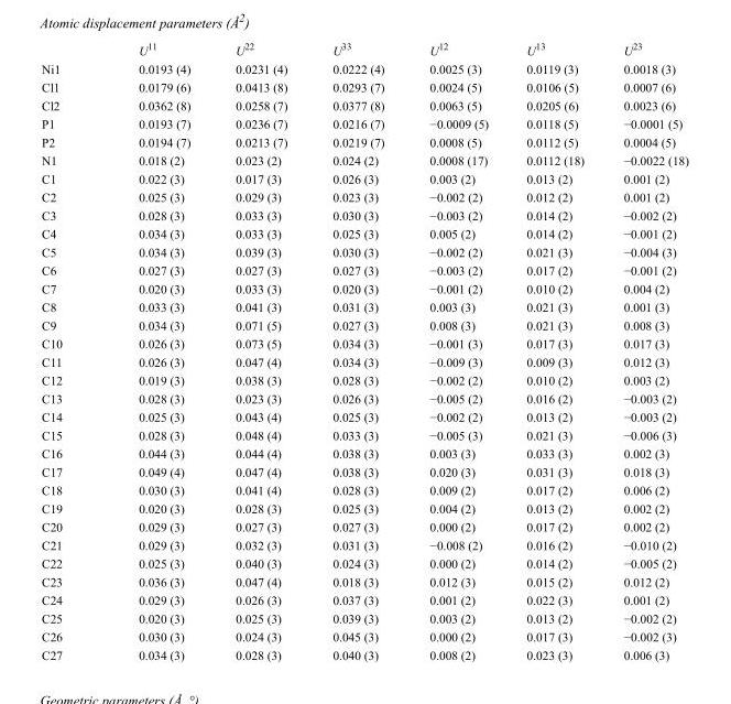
<table><thead><tr><td></td><td>U<sup>11</sup></td><td>U<sup>22</sup></td><td>U<sup>33</sup></td><td>U<sup>12</sup></td><td>U<sup>13</sup></td><td>U<sup>23</sup></td></tr></thead><tbody><tr><td>Ni1</td><td>0.0193 (4)</td><td>0.0231 (4)</td><td>0.0222 (4)</td><td>0.0025 (3)</td><td>0.0119 (3)</td><td>0.0018 (3)</td></tr><tr><td>Cl1</td><td>0.0179 (6)</td><td>0.0413 (8)</td><td>0.0293 (7)</td><td>0.0024 (5)</td><td>0.0106 (5)</td><td>0.0007 (6)</td></tr><tr><td>Cl2</td><td>0.0362 (8)</td><td>0.0258 (7)</td><td>0.0377 (8)</td><td>0.0063 (5)</td><td>0.0205 (6)</td><td>0.0023 (6)</td></tr><tr><td>P1</td><td>0.0193 (7)</td><td>0.0236 (7)</td><td>0.0216 (7)</td><td>−0.0009 (5)</td><td>0.0118 (5)</td><td>−0.0001 (5)</td></tr><tr><td>P2</td><td>0.0194 (7)</td><td>0.0213 (7)</td><td>0.0219 (7)</td><td>0.0008 (5)</td><td>0.0112 (5)</td><td>0.0004 (5)</td></tr><tr><td>N1</td><td>0.018 (2)</td><td>0.023 (2)</td><td>0.024 (2)</td><td>0.0008 (17)</td><td>0.0112 (18)</td><td>−0.0022 (18)</td></tr><tr><td>C1</td><td>0.022 (3)</td><td>0.017 (3)</td><td>0.026 (3)</td><td>0.003 (2)</td><td>0.013 (2)</td><td>0.001 (2)</td></tr><tr><td>C2</td><td>0.025 (3)</td><td>0.029 (3)</td><td>0.023 (3)</td><td>−0.002 (2)</td><td>0.012 (2)</td><td>0.001 (2)</td></tr><tr><td>C3</td><td>0.028 (3)</td><td>0.033 (3)</td><td>0.030 (3)</td><td>−0.003 (2)</td><td>0.014 (2)</td><td>−0.002 (2)</td></tr><tr><td>C4</td><td>0.034 (3)</td><td>0.033 (3)</td><td>0.025 (3)</td><td>0.005 (2)</td><td>0.014 (2)</td><td>−0.001 (2)</td></tr><tr><td>C5</td><td>0.034 (3)</td><td>0.039 (3)</td><td>0.030 (3)</td><td>−0.002 (2)</td><td>0.021 (3)</td><td>−0.004 (3)</td></tr><tr><td>C6</td><td>0.027 (3)</td><td>0.027 (3)</td><td>0.027 (3)</td><td>−0.003 (2)</td><td>0.017 (2)</td><td>−0.001 (2)</td></tr><tr><td>C7</td><td>0.020 (3)</td><td>0.033 (3)</td><td>0.020 (3)</td><td>−0.001 (2)</td><td>0.010 (2)</td><td>0.004 (2)</td></tr><tr><td>C8</td><td>0.033 (3)</td><td>0.041 (3)</td><td>0.031 (3)</td><td>0.003 (3)</td><td>0.021 (3)</td><td>0.001 (3)</td></tr><tr><td>C9</td><td>0.034 (3)</td><td>0.071 (5)</td><td>0.027 (3)</td><td>0.008 (3)</td><td>0.021 (3)</td><td>0.008 (3)</td></tr><tr><td>C10</td><td>0.026 (3)</td><td>0.073 (5)</td><td>0.034 (3)</td><td>−0.001 (3)</td><td>0.017 (3)</td><td>0.017 (3)</td></tr><tr><td>C11</td><td>0.026 (3)</td><td>0.047 (4)</td><td>0.034 (3)</td><td>−0.009 (3)</td><td>0.009 (3)</td><td>0.012 (3)</td></tr><tr><td>C12</td><td>0.019 (3)</td><td>0.038 (3)</td><td>0.028 (3)</td><td>−0.002 (2)</td><td>0.010 (2)</td><td>0.003 (2)</td></tr><tr><td>C13</td><td>0.028 (3)</td><td>0.023 (3)</td><td>0.026 (3)</td><td>−0.005 (2)</td><td>0.016 (2)</td><td>−0.003 (2)</td></tr><tr><td>C14</td><td>0.025 (3)</td><td>0.043 (4)</td><td>0.025 (3)</td><td>−0.002 (2)</td><td>0.013 (2)</td><td>−0.003 (2)</td></tr><tr><td>C15</td><td>0.028 (3)</td><td>0.048 (4)</td><td>0.033 (3)</td><td>−0.005 (3)</td><td>0.021 (3)</td><td>−0.006 (3)</td></tr><tr><td>C16</td><td>0.044 (3)</td><td>0.044 (4)</td><td>0.038 (3)</td><td>0.003 (3)</td><td>0.033 (3)</td><td>0.002 (3)</td></tr><tr><td>C17</td><td>0.049 (4)</td><td>0.047 (4)</td><td>0.038 (3)</td><td>0.020 (3)</td><td>0.031 (3)</td><td>0.018 (3)</td></tr><tr><td>C18</td><td>0.030 (3)</td><td>0.041 (4)</td><td>0.028 (3)</td><td>0.009 (2)</td><td>0.017 (2)</td><td>0.006 (2)</td></tr><tr><td>C19</td><td>0.020 (3)</td><td>0.028 (3)</td><td>0.025 (3)</td><td>0.004 (2)</td><td>0.013 (2)</td><td>0.002 (2)</td></tr><tr><td>C20</td><td>0.029 (3)</td><td>0.027 (3)</td><td>0.027 (3)</td><td>0.000 (2)</td><td>0.017 (2)</td><td>0.002 (2)</td></tr><tr><td>C21</td><td>0.029 (3)</td><td>0.032 (3)</td><td>0.031 (3)</td><td>−0.008 (2)</td><td>0.016 (2)</td><td>−0.010 (2)</td></tr><tr><td>C22</td><td>0.025 (3)</td><td>0.040 (3)</td><td>0.024 (3)</td><td>0.000 (2)</td><td>0.014 (2)</td><td>−0.005 (2)</td></tr><tr><td>C23</td><td>0.036 (3)</td><td>0.047 (4)</td><td>0.018 (3)</td><td>0.012 (3)</td><td>0.015 (2)</td><td>0.012 (2)</td></tr><tr><td>C24</td><td>0.029 (3)</td><td>0.026 (3)</td><td>0.037 (3)</td><td>0.001 (2)</td><td>0.022 (3)</td><td>0.001 (2)</td></tr><tr><td>C25</td><td>0.020 (3)</td><td>0.025 (3)</td><td>0.039 (3)</td><td>0.003 (2)</td><td>0.013 (2)</td><td>−0.002 (2)</td></tr><tr><td>C26</td><td>0.030 (3)</td><td>0.024 (3)</td><td>0.045 (3)</td><td>0.000 (2)</td><td>0.017 (3)</td><td>−0.002 (3)</td></tr><tr><td>C27</td><td>0.034 (3)</td><td>0.028 (3)</td><td>0.040 (3)</td><td>0.008 (2)</td><td>0.023 (3)</td><td>0.006 (3)</td></tr></tbody></table>